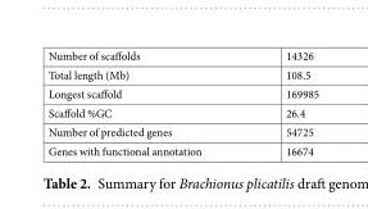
<table><tbody><tr><td>Number of scaffolds</td><td>14326</td></tr><tr><td>Total length (Mb)</td><td>108.5</td></tr><tr><td>Longest scaffold</td><td>169985</td></tr><tr><td>Scaffold %GC</td><td>26.4</td></tr><tr><td>Number of predicted genes</td><td>54725</td></tr><tr><td>Genes with functional annotation</td><td>16674</td></tr></tbody></table>